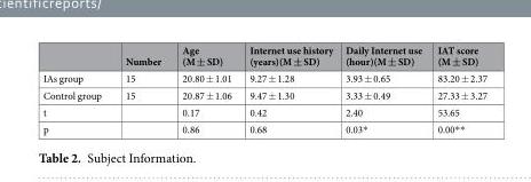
<table><thead><tr><td></td><td>Number</td><td>Age (M ± SD)</td><td>Internet use history (years)(M ± SD)</td><td>Daily Internet use (hour)(M ± SD)</td><td>IAT score (M ± SD)</td></tr></thead><tbody><tr><td>IAs group</td><td>15</td><td>20.80 ± 1.01</td><td>9.27 ± 1.28</td><td>3.93 ± 0.65</td><td>83.20 ± 2.37</td></tr><tr><td>Control group</td><td>15</td><td>20.87 ± 1.06</td><td>9.47 ± 1.30</td><td>3.33 ± 0.49</td><td>27.33 ± 3.27</td></tr><tr><td>t</td><td></td><td>0.17</td><td>0.42</td><td>2.40</td><td>53.65</td></tr><tr><td>p</td><td></td><td>0.86</td><td>0.68</td><td>0.03*</td><td>0.00**</td></tr></tbody></table>